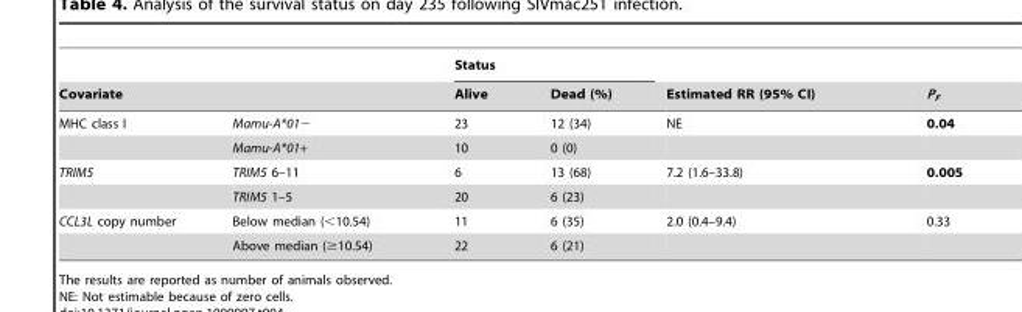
<table><thead><tr><td></td><td></td><td colspan="2">Status</td><td rowspan="2">Estimated RR (95% CI)</td><td rowspan="2">P<sub>F</sub></td></tr><tr><td colspan="2">Covariate</td><td>Alive</td><td>Dead (%)</td></tr></thead><tbody><tr><td rowspan="2">MHC class I</td><td>Mamu-A*01−</td><td>23</td><td>12 (34)</td><td>NE</td><td>0.04</td></tr><tr><td>Mamu-A*01+</td><td>10</td><td>0 (0)</td><td></td><td></td></tr><tr><td rowspan="2">TRIM5</td><td>TRIM5 6–11</td><td>6</td><td>13 (68)</td><td>7.2 (1.6–33.8)</td><td>0.005</td></tr><tr><td>TRIM5 1–5</td><td>20</td><td>6 (23)</td><td></td><td></td></tr><tr><td rowspan="2">CCL3L copy number</td><td>Below median (&lt;10.54)</td><td>11</td><td>6 (35)</td><td>2.0 (0.4–9.4)</td><td>0.33</td></tr><tr><td>Above median (≥10.54)</td><td>22</td><td>6 (21)</td><td></td><td></td></tr></tbody></table>